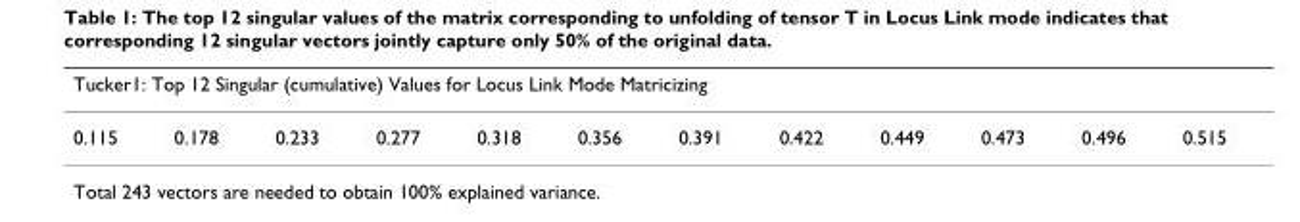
<table><thead><tr><td colspan="12">Tucker1: Top 12 Singular (cumulative) Values for Locus Link Mode Matricizing</td></tr><tr><td>0.115</td><td>0.178</td><td>0.233</td><td>0.277</td><td>0.318</td><td>0.356</td><td>0.391</td><td>0.422</td><td>0.449</td><td>0.473</td><td>0.496</td><td>0.515</td></tr></thead><tbody></tbody></table>